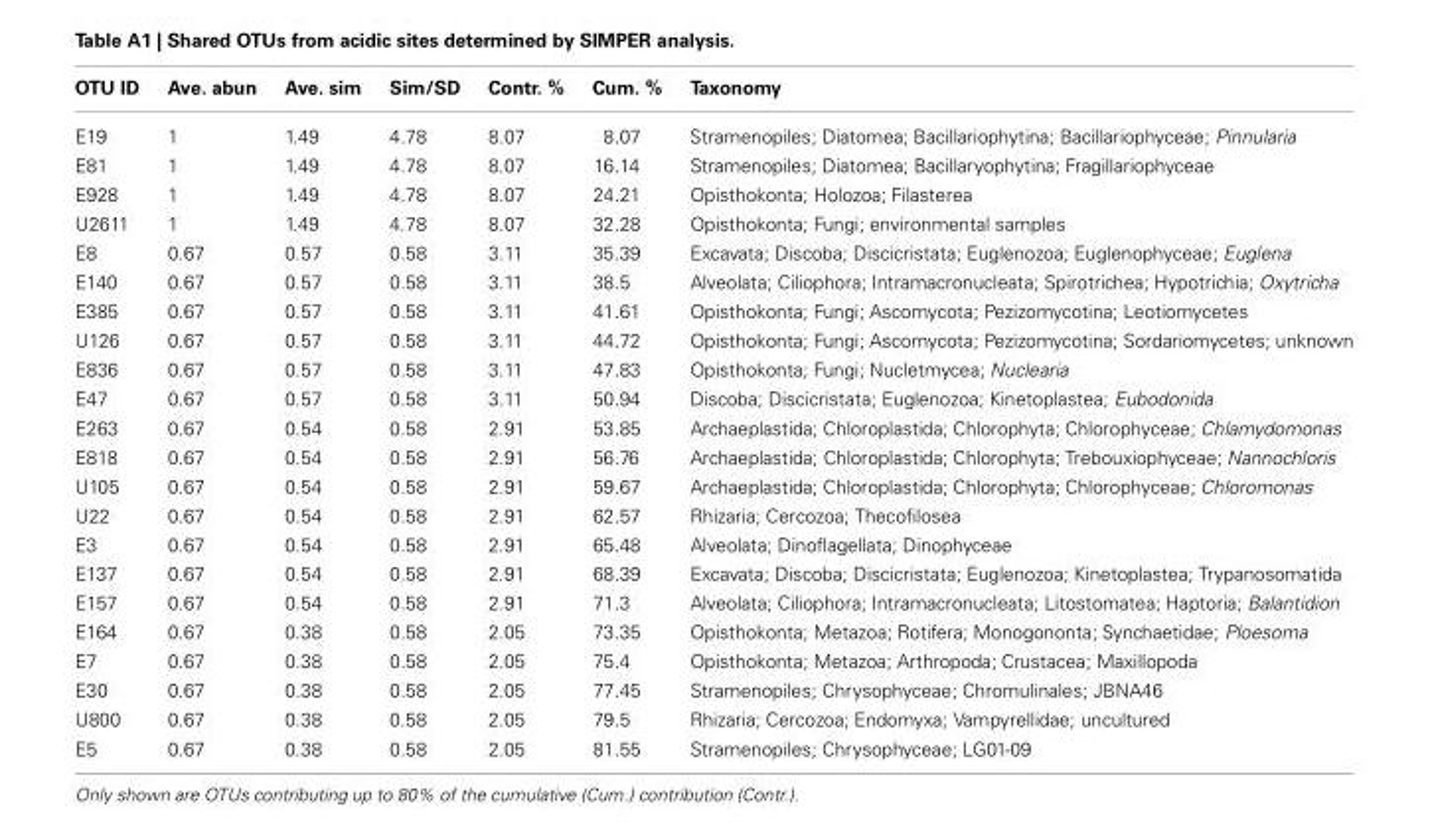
<table><thead><tr><td>OTU ID</td><td>Ave. abun</td><td>Ave. sim</td><td>Sim/SD</td><td>Contr. %</td><td>Cum. %</td><td>Taxonomy</td></tr></thead><tbody><tr><td>E19</td><td>1</td><td>1.49</td><td>4.78</td><td>8.07</td><td>8.07</td><td>Stramenopiles; Diatomea; Bacillariophytina; Bacillariophyceae; Pinnularia</td></tr><tr><td>E81</td><td>1</td><td>1.49</td><td>4.78</td><td>8.07</td><td>16.14</td><td>Stramenopiles; Diatomea; Bacillaryophytina; Fragillariophyceae</td></tr><tr><td>E928</td><td>1</td><td>1.49</td><td>4.78</td><td>8.07</td><td>24.21</td><td>Opisthokonta; Holozoa; Filasterea</td></tr><tr><td>U2611</td><td>1</td><td>1.49</td><td>4.78</td><td>8.07</td><td>32.28</td><td>Opisthokonta; Fungi; environmental samples</td></tr><tr><td>E8</td><td>0.67</td><td>0.57</td><td>0.58</td><td>3.11</td><td>35.39</td><td>Excavata; Discoba; Discicristata; Euglenozoa; Euglenophyceae; Euglena</td></tr><tr><td>E140</td><td>0.67</td><td>0.57</td><td>0.58</td><td>3.11</td><td>38.5</td><td>Alveolata; Ciliophora; Intramacronucleata; Spirotrichea; Hypotrichia; Oxytricha</td></tr><tr><td>E385</td><td>0.67</td><td>0.57</td><td>0.58</td><td>3.11</td><td>41.61</td><td>Opisthokonta; Fungi; Ascomycota; Pezizomycotina; Leotiomycetes</td></tr><tr><td>U126</td><td>0.67</td><td>0.57</td><td>0.58</td><td>3.11</td><td>44.72</td><td>Opisthokonta; Fungi; Ascomycota; Pezizomycotina; Sordariomycetes; unknown</td></tr><tr><td>E836</td><td>0.67</td><td>0.57</td><td>0.58</td><td>3.11</td><td>47.83</td><td>Opisthokonta; Fungi; Nucletmycea; Nuclearia</td></tr><tr><td>E47</td><td>0.67</td><td>0.57</td><td>0.58</td><td>3.11</td><td>50.94</td><td>Discoba; Discicristata; Euglenozoa; Kinetoplastea; Eubodonida</td></tr><tr><td>E263</td><td>0.67</td><td>0.54</td><td>0.58</td><td>2.91</td><td>53.85</td><td>Archaeplastida; Chloroplastida; Chlorophyta; Chlorophyceae; Chlamydomonas</td></tr><tr><td>E818</td><td>0.67</td><td>0.54</td><td>0.58</td><td>2.91</td><td>56.76</td><td>Archaeplastida; Chloroplastida; Chlorophyta; Trebouxiophyceae; Nannochloris</td></tr><tr><td>U105</td><td>0.67</td><td>0.54</td><td>0.58</td><td>2.91</td><td>59.67</td><td>Archaeplastida; Chloroplastida; Chlorophyta; Chlorophyceae; Chloromonas</td></tr><tr><td>U22</td><td>0.67</td><td>0.54</td><td>0.58</td><td>2.91</td><td>62.57</td><td>Rhizaria; Cercozoa; Thecofilosea</td></tr><tr><td>E3</td><td>0.67</td><td>0.54</td><td>0.58</td><td>2.91</td><td>65.48</td><td>Alveolata; Dinoflagellata; Dinophyceae</td></tr><tr><td>E137</td><td>0.67</td><td>0.54</td><td>0.58</td><td>2.91</td><td>68.39</td><td>Excavata; Discoba; Discicristata; Euglenozoa; Kinetoplastea; Trypanosomatida</td></tr><tr><td>E157</td><td>0.67</td><td>0.54</td><td>0.58</td><td>2.91</td><td>71.3</td><td>Alveolata; Ciliophora; Intramacronucleata; Litostomatea; Haptoria; Balantidion</td></tr><tr><td>E164</td><td>0.67</td><td>0.38</td><td>0.58</td><td>2.05</td><td>73.35</td><td>Opisthokonta; Metazoa; Rotifera; Monogononta; Synchaetidae; Ploesoma</td></tr><tr><td>E7</td><td>0.67</td><td>0.38</td><td>0.58</td><td>2.05</td><td>75.4</td><td>Opisthokonta; Metazoa; Arthropoda; Crustacea; Maxillopoda</td></tr><tr><td>E30</td><td>0.67</td><td>0.38</td><td>0.58</td><td>2.05</td><td>77.45</td><td>Stramenopiles; Chrysophyceae; Chromulinales; JBNA46</td></tr><tr><td>U800</td><td>0.67</td><td>0.38</td><td>0.58</td><td>2.05</td><td>79.5</td><td>Rhizaria; Cercozoa; Endomyxa; Vampyrellidae; uncultured</td></tr><tr><td>E5</td><td>0.67</td><td>0.38</td><td>0.58</td><td>2.05</td><td>81.55</td><td>Stramenopiles; Chrysophyceae; LG01-09</td></tr></tbody></table>